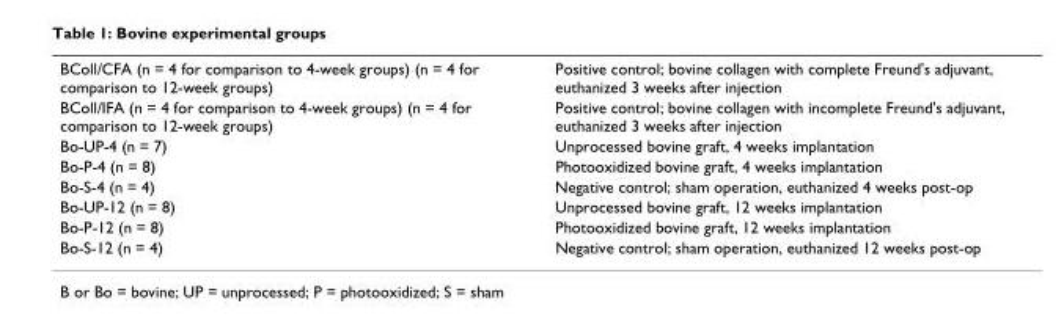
<table><tbody><tr><td>BColl/CFA (n = 4 for comparison to 4-week groups) (n = 4 for comparison to 12-week groups)</td><td>Positive control; bovine collagen with complete Freund&#x27;s adjuvant, euthanized 3 weeks after injection</td></tr><tr><td>BColl/IFA (n = 4 for comparison to 4-week groups) (n = 4 for comparison to 12-week groups)</td><td>Positive control; bovine collagen with incomplete Freund&#x27;s adjuvant, euthanized 3 weeks after injection</td></tr><tr><td>Bo-UP-4 (n = 7)</td><td>Unprocessed bovine graft, 4 weeks implantation</td></tr><tr><td>Bo-P-4 (n = 8)</td><td>Photooxidized bovine graft, 4 weeks implantation</td></tr><tr><td>Bo-S-4 (n = 4)</td><td>Negative control; sham operation, euthanized 4 weeks post-op</td></tr><tr><td>Bo-UP-12 (n = 8)</td><td>Unprocessed bovine graft, 12 weeks implantation</td></tr><tr><td>Bo-P-12 (n = 8)</td><td>Photooxidized bovine graft, 12 weeks implantation</td></tr><tr><td>Bo-S-12 (n = 4)</td><td>Negative control; sham operation, euthanized 12 weeks post-op</td></tr></tbody></table>